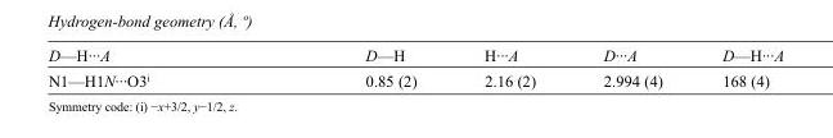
<table><tbody><tr><td>D—H···A</td><td>D—H</td><td>H···A</td><td>D···A</td><td>D—H···A</td></tr><tr><td>N1—H1N···O3<sup>i</sup></td><td>0.85 (2)</td><td>2.16 (2)</td><td>2.994 (4)</td><td>168 (4)</td></tr></tbody></table>